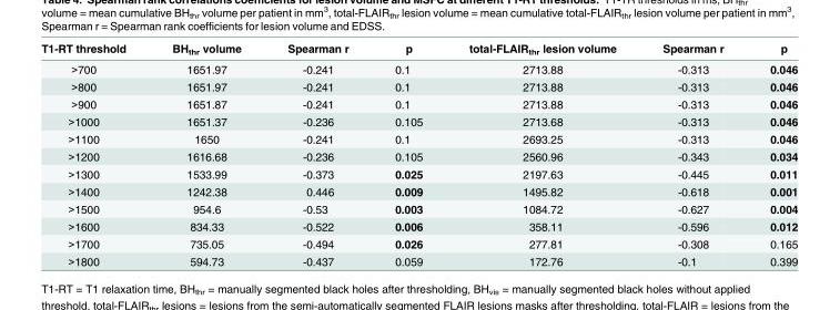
<table><thead><tr><td>T1-RT threshold</td><td>BH<sub>thr</sub> volume</td><td>Spearman r</td><td>p</td><td>total-FLAIR<sub>thr</sub> lesion volume</td><td>Spearman r</td><td>p</td></tr></thead><tbody><tr><td>&gt;700</td><td>1651.97</td><td>-0.241</td><td>0.1</td><td>2713.88</td><td>-0.313</td><td>0.046</td></tr><tr><td>&gt;800</td><td>1651.97</td><td>-0.241</td><td>0.1</td><td>2713.88</td><td>-0.313</td><td>0.046</td></tr><tr><td>&gt;900</td><td>1651.87</td><td>-0.241</td><td>0.1</td><td>2713.88</td><td>-0.313</td><td>0.046</td></tr><tr><td>&gt;1000</td><td>1651.37</td><td>-0.236</td><td>0.105</td><td>2713.68</td><td>-0.313</td><td>0.046</td></tr><tr><td>&gt;1100</td><td>1650</td><td>-0.241</td><td>0.1</td><td>2693.25</td><td>-0.313</td><td>0.046</td></tr><tr><td>&gt;1200</td><td>1616.68</td><td>-0.236</td><td>0.105</td><td>2560.96</td><td>-0.343</td><td>0.034</td></tr><tr><td>&gt;1300</td><td>1533.99</td><td>-0.373</td><td>0.025</td><td>2197.63</td><td>-0.445</td><td>0.011</td></tr><tr><td>&gt;1400</td><td>1242.38</td><td>0.446</td><td>0.009</td><td>1495.82</td><td>-0.618</td><td>0.001</td></tr><tr><td>&gt;1500</td><td>954.6</td><td>-0.53</td><td>0.003</td><td>1084.72</td><td>-0.627</td><td>0.004</td></tr><tr><td>&gt;1600</td><td>834.33</td><td>-0.522</td><td>0.006</td><td>358.11</td><td>-0.596</td><td>0.012</td></tr><tr><td>&gt;1700</td><td>735.05</td><td>-0.494</td><td>0.026</td><td>277.81</td><td>-0.308</td><td>0.165</td></tr><tr><td>&gt;1800</td><td>594.73</td><td>-0.437</td><td>0.059</td><td>172.76</td><td>-0.1</td><td>0.399</td></tr></tbody></table>